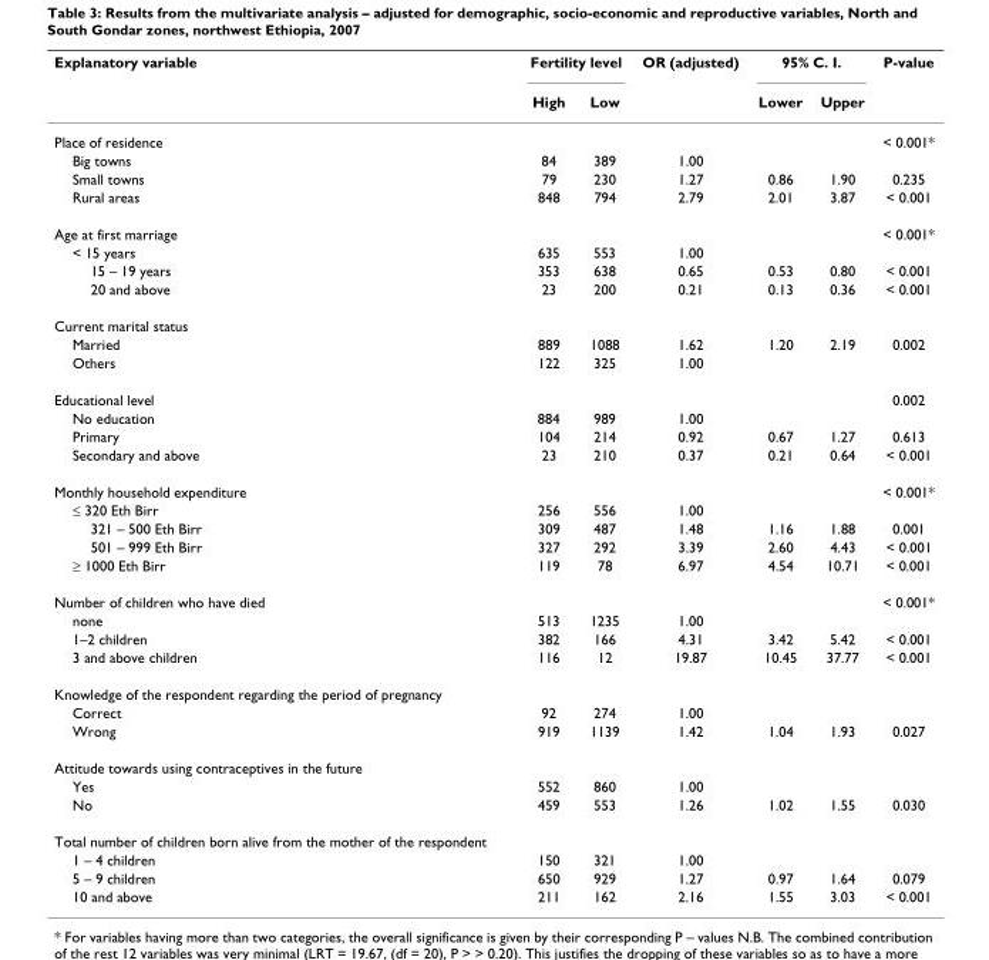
<table><thead><tr><td rowspan="2">Explanatory variable</td><td colspan="2">Fertility level</td><td rowspan="2">OR (adjusted)</td><td colspan="2">95% C. I.</td><td rowspan="2">P-value</td></tr><tr><td>High</td><td>Low</td><td>Lower</td><td>Upper</td></tr></thead><tbody><tr><td>Place of residence</td><td></td><td></td><td></td><td></td><td></td><td>&lt; 0.001*</td></tr><tr><td>Big towns</td><td>84</td><td>389</td><td>1.00</td><td></td><td></td><td></td></tr><tr><td>Small towns</td><td>79</td><td>230</td><td>1.27</td><td>0.86</td><td>1.90</td><td>0.235</td></tr><tr><td>Rural areas</td><td>848</td><td>794</td><td>2.79</td><td>2.01</td><td>3.87</td><td>&lt; 0.001</td></tr><tr><td>Age at first marriage</td><td></td><td></td><td></td><td></td><td></td><td>&lt; 0.001*</td></tr><tr><td>&lt; 15 years</td><td>635</td><td>553</td><td>1.00</td><td></td><td></td><td></td></tr><tr><td>15 – 19 years</td><td>353</td><td>638</td><td>0.65</td><td>0.53</td><td>0.80</td><td>&lt; 0.001</td></tr><tr><td>20 and above</td><td>23</td><td>200</td><td>0.21</td><td>0.13</td><td>0.36</td><td>&lt; 0.001</td></tr><tr><td colspan="7">Current marital status</td></tr><tr><td>Married</td><td>889</td><td>1088</td><td>1.62</td><td>1.20</td><td>2.19</td><td>0.002</td></tr><tr><td>Others</td><td>122</td><td>325</td><td>1.00</td><td></td><td></td><td></td></tr><tr><td>Educational level</td><td></td><td></td><td></td><td></td><td></td><td>0.002</td></tr><tr><td>No education</td><td>884</td><td>989</td><td>1.00</td><td></td><td></td><td></td></tr><tr><td>Primary</td><td>104</td><td>214</td><td>0.92</td><td>0.67</td><td>1.27</td><td>0.613</td></tr><tr><td>Secondary and above</td><td>23</td><td>210</td><td>0.37</td><td>0.21</td><td>0.64</td><td>&lt; 0.001</td></tr><tr><td>Monthly household expenditure</td><td></td><td></td><td></td><td></td><td></td><td>&lt; 0.001*</td></tr><tr><td>≤ 320 Eth Birr</td><td>256</td><td>556</td><td>1.00</td><td></td><td></td><td></td></tr><tr><td>321 – 500 Eth Birr</td><td>309</td><td>487</td><td>1.48</td><td>1.16</td><td>1.88</td><td>0.001</td></tr><tr><td>501 – 999 Eth Birr</td><td>327</td><td>292</td><td>3.39</td><td>2.60</td><td>4.43</td><td>&lt; 0.001</td></tr><tr><td>≥ 1000 Eth Birr</td><td>119</td><td>78</td><td>6.97</td><td>4.54</td><td>10.71</td><td>&lt; 0.001</td></tr><tr><td>Number of children who have died</td><td></td><td></td><td></td><td></td><td></td><td>&lt; 0.001*</td></tr><tr><td>none</td><td>513</td><td>1235</td><td>1.00</td><td></td><td></td><td></td></tr><tr><td>1–2 children</td><td>382</td><td>166</td><td>4.31</td><td>3.42</td><td>5.42</td><td>&lt; 0.001</td></tr><tr><td>3 and above children</td><td>116</td><td>12</td><td>19.87</td><td>10.45</td><td>37.77</td><td>&lt; 0.001</td></tr><tr><td colspan="7">Knowledge of the respondent regarding the period of pregnancy</td></tr><tr><td>Correct</td><td>92</td><td>274</td><td>1.00</td><td></td><td></td><td></td></tr><tr><td>Wrong</td><td>919</td><td>1139</td><td>1.42</td><td>1.04</td><td>1.93</td><td>0.027</td></tr><tr><td colspan="7">Attitude towards using contraceptives in the future</td></tr><tr><td>Yes</td><td>552</td><td>860</td><td>1.00</td><td></td><td></td><td></td></tr><tr><td>No</td><td>459</td><td>553</td><td>1.26</td><td>1.02</td><td>1.55</td><td>0.030</td></tr><tr><td colspan="7">Total number of children born alive from the mother of the respondent</td></tr><tr><td>1 – 4 children</td><td>150</td><td>321</td><td>1.00</td><td></td><td></td><td></td></tr><tr><td>5 – 9 children</td><td>650</td><td>929</td><td>1.27</td><td>0.97</td><td>1.64</td><td>0.079</td></tr><tr><td>10 and above</td><td>211</td><td>162</td><td>2.16</td><td>1.55</td><td>3.03</td><td>&lt; 0.001</td></tr></tbody></table>